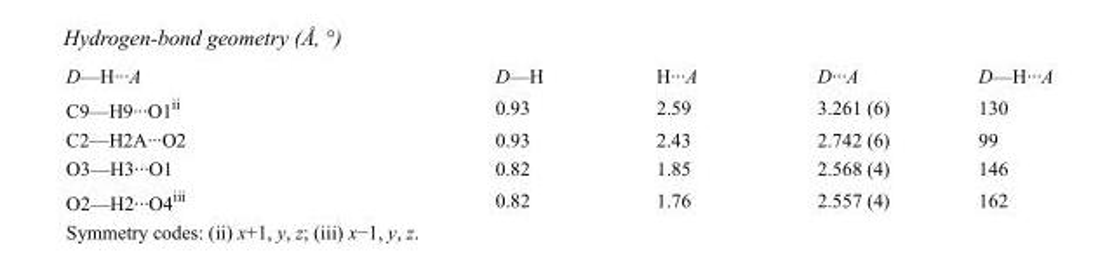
<table><tbody><tr><td>D—H···A</td><td>D—H</td><td>H···A</td><td>D···A</td><td>D—H···A</td></tr><tr><td>C9—H9···O1<sup>ii</sup></td><td>0.93</td><td>2.59</td><td>3.261 (6)</td><td>130</td></tr><tr><td>C2—H2A···O2</td><td>0.93</td><td>2.43</td><td>2.742 (6)</td><td>99</td></tr><tr><td>O3—H3···O1</td><td>0.82</td><td>1.85</td><td>2.568 (4)</td><td>146</td></tr><tr><td>O2—H2···O4<sup>iii</sup></td><td>0.82</td><td>1.76</td><td>2.557 (4)</td><td>162</td></tr></tbody></table>